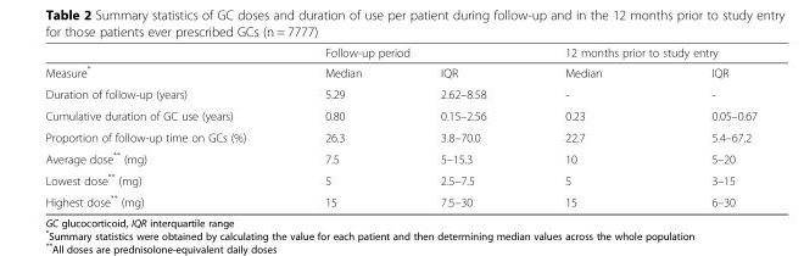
<table><thead><tr><td rowspan="2">Measure*</td><td colspan="2">Follow-up period</td><td colspan="2">12 months prior to study entry</td></tr><tr><td>Median</td><td>IQR</td><td>Median</td><td>IQR</td></tr></thead><tbody><tr><td>Duration of follow-up (years)</td><td>5.29</td><td>2.62–8.58</td><td>-</td><td>-</td></tr><tr><td>Cumulative duration of GC use (years)</td><td>0.80</td><td>0.15–2.56</td><td>0.23</td><td>0.05–0.67</td></tr><tr><td>Proportion of follow-up time on GCs (%)</td><td>26.3</td><td>3.8–70.0</td><td>22.7</td><td>5.4–67.2</td></tr><tr><td>Average dose** (mg)</td><td>7.5</td><td>5–15.3</td><td>10</td><td>5–20</td></tr><tr><td>Lowest dose** (mg)</td><td>5</td><td>2.5–7.5</td><td>5</td><td>3–15</td></tr><tr><td>Highest dose** (mg)</td><td>15</td><td>7.5–30</td><td>15</td><td>6–30</td></tr></tbody></table>